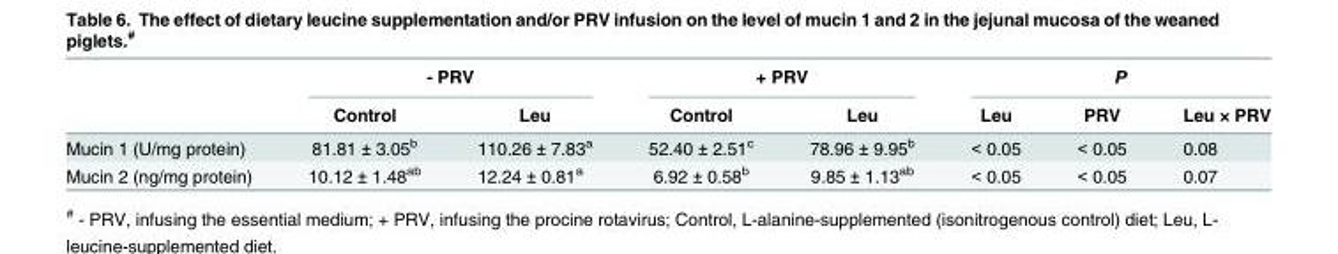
<table><thead><tr><td rowspan="2"></td><td colspan="2">- PRV</td><td colspan="2">+ PRV</td><td colspan="3">P</td></tr><tr><td>Control</td><td>Leu</td><td>Control</td><td>Leu</td><td>Leu</td><td>PRV</td><td>Leu × PRV</td></tr></thead><tbody><tr><td>Mucin 1 (U/mg protein)</td><td>81.81 ± 3.05<sup>b</sup></td><td>110.26 ± 7.83<sup>a</sup></td><td>52.40 ± 2.51<sup>c</sup></td><td>78.96 ± 9.95<sup>b</sup></td><td>&lt; 0.05</td><td>&lt; 0.05</td><td>0.08</td></tr><tr><td>Mucin 2 (ng/mg protein)</td><td>10.12 ± 1.48<sup>ab</sup></td><td>12.24 ± 0.81<sup>a</sup></td><td>6.92 ± 0.58<sup>b</sup></td><td>9.85 ± 1.13<sup>ab</sup></td><td>&lt; 0.05</td><td>&lt; 0.05</td><td>0.07</td></tr></tbody></table>